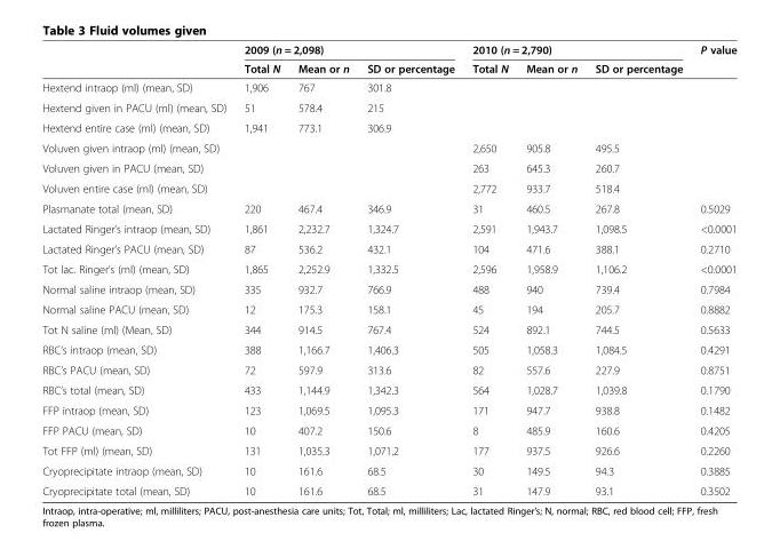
<table><thead><tr><td rowspan="2"></td><td colspan="3">2009 (n = 2,098)</td><td colspan="3">2010 (n = 2,790)</td><td rowspan="2">P value</td></tr><tr><td>Total N</td><td>Mean or n</td><td>SD or percentage</td><td>Total N</td><td>Mean or n</td><td>SD or percentage</td></tr></thead><tbody><tr><td>Hextend intraop (ml) (mean, SD)</td><td>1,906</td><td>767</td><td>301.8</td><td></td><td></td><td></td><td></td></tr><tr><td>Hextend given in PACU (ml) (mean, SD)</td><td>51</td><td>578.4</td><td>215</td><td></td><td></td><td></td><td></td></tr><tr><td>Hextend entire case (ml) (mean, SD)</td><td>1,941</td><td>773.1</td><td>306.9</td><td></td><td></td><td></td><td></td></tr><tr><td>Voluven given intraop (ml) (mean, SD)</td><td></td><td></td><td></td><td>2,650</td><td>905.8</td><td>495.5</td><td></td></tr><tr><td>Voluven given in PACU (mean, SD)</td><td></td><td></td><td></td><td>263</td><td>645.3</td><td>260.7</td><td></td></tr><tr><td>Voluven entire case (ml) (mean, SD)</td><td></td><td></td><td></td><td>2,772</td><td>933.7</td><td>518.4</td><td></td></tr><tr><td>Plasmanate total (mean, SD)</td><td>220</td><td>467.4</td><td>346.9</td><td>31</td><td>460.5</td><td>267.8</td><td>0.5029</td></tr><tr><td>Lactated Ringer’s intraop (mean, SD)</td><td>1,861</td><td>2,232.7</td><td>1,324.7</td><td>2,591</td><td>1,943.7</td><td>1,098.5</td><td>&lt;0.0001</td></tr><tr><td>Lactated Ringer’s PACU (mean, SD)</td><td>87</td><td>536.2</td><td>432.1</td><td>104</td><td>471.6</td><td>388.1</td><td>0.2710</td></tr><tr><td>Tot lac. Ringer’s (ml) (mean, SD)</td><td>1,865</td><td>2,252.9</td><td>1,332.5</td><td>2,596</td><td>1,958.9</td><td>1,106.2</td><td>&lt;0.0001</td></tr><tr><td>Normal saline intraop (mean, SD)</td><td>335</td><td>932.7</td><td>766.9</td><td>488</td><td>940</td><td>739.4</td><td>0.7984</td></tr><tr><td>Normal saline PACU (mean, SD)</td><td>12</td><td>175.3</td><td>158.1</td><td>45</td><td>194</td><td>205.7</td><td>0.8882</td></tr><tr><td>Tot N saline (ml) (Mean, SD)</td><td>344</td><td>914.5</td><td>767.4</td><td>524</td><td>892.1</td><td>744.5</td><td>0.5633</td></tr><tr><td>RBC’s intraop (mean, SD)</td><td>388</td><td>1,166.7</td><td>1,406.3</td><td>505</td><td>1,058.3</td><td>1,084.5</td><td>0.4291</td></tr><tr><td>RBC’s PACU (mean, SD)</td><td>72</td><td>597.9</td><td>313.6</td><td>82</td><td>557.6</td><td>227.9</td><td>0.8751</td></tr><tr><td>RBC’s total (mean, SD)</td><td>433</td><td>1,144.9</td><td>1,342.3</td><td>564</td><td>1,028.7</td><td>1,039.8</td><td>0.1790</td></tr><tr><td>FFP intraop (mean, SD)</td><td>123</td><td>1,069.5</td><td>1,095.3</td><td>171</td><td>947.7</td><td>938.8</td><td>0.1482</td></tr><tr><td>FFP PACU (mean, SD)</td><td>10</td><td>407.2</td><td>150.6</td><td>8</td><td>485.9</td><td>160.6</td><td>0.4205</td></tr><tr><td>Tot FFP (ml) (mean, SD)</td><td>131</td><td>1,035.3</td><td>1,071.2</td><td>177</td><td>937.5</td><td>926.6</td><td>0.2260</td></tr><tr><td>Cryoprecipitate intraop (mean, SD)</td><td>10</td><td>161.6</td><td>68.5</td><td>30</td><td>149.5</td><td>94.3</td><td>0.3885</td></tr><tr><td>Cryoprecipitate total (mean, SD)</td><td>10</td><td>161.6</td><td>68.5</td><td>31</td><td>147.9</td><td>93.1</td><td>0.3502</td></tr></tbody></table>